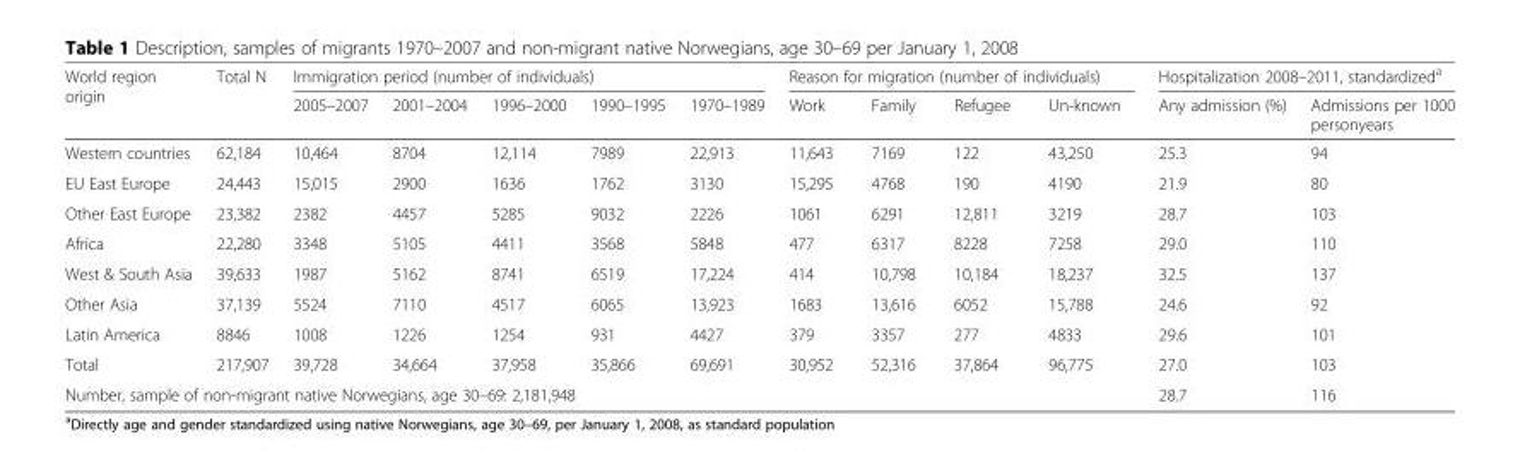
<table><thead><tr><td rowspan="2">World region origin</td><td rowspan="2">Total N</td><td colspan="5">Immigration period (number of individuals)</td><td colspan="4">Reason for migration (number of individuals)</td><td colspan="2">Hospitalization 2008–2011, standardized<sup>a</sup></td></tr><tr><td>2005–2007</td><td>2001–2004</td><td>1996–2000</td><td>1990–1995</td><td>1970–1989</td><td>Work</td><td>Family</td><td>Refugee</td><td>Un-known</td><td>Any admission (%)</td><td>Admissions per 1000 personyears</td></tr></thead><tbody><tr><td>Western countries</td><td>62,184</td><td>10,464</td><td>8704</td><td>12,114</td><td>7989</td><td>22,913</td><td>11,643</td><td>7169</td><td>122</td><td>43,250</td><td>25.3</td><td>94</td></tr><tr><td>EU East Europe</td><td>24,443</td><td>15,015</td><td>2900</td><td>1636</td><td>1762</td><td>3130</td><td>15,295</td><td>4768</td><td>190</td><td>4190</td><td>21.9</td><td>80</td></tr><tr><td>Other East Europe</td><td>23,382</td><td>2382</td><td>4457</td><td>5285</td><td>9032</td><td>2226</td><td>1061</td><td>6291</td><td>12,811</td><td>3219</td><td>28.7</td><td>103</td></tr><tr><td>Africa</td><td>22,280</td><td>3348</td><td>5105</td><td>4411</td><td>3568</td><td>5848</td><td>477</td><td>6317</td><td>8228</td><td>7258</td><td>29.0</td><td>110</td></tr><tr><td>West &amp; South Asia</td><td>39,633</td><td>1987</td><td>5162</td><td>8741</td><td>6519</td><td>17,224</td><td>414</td><td>10,798</td><td>10,184</td><td>18,237</td><td>32.5</td><td>137</td></tr><tr><td>Other Asia</td><td>37,139</td><td>5524</td><td>7110</td><td>4517</td><td>6065</td><td>13,923</td><td>1683</td><td>13,616</td><td>6052</td><td>15,788</td><td>24.6</td><td>92</td></tr><tr><td>Latin America</td><td>8846</td><td>1008</td><td>1226</td><td>1254</td><td>931</td><td>4427</td><td>379</td><td>3357</td><td>277</td><td>4833</td><td>29.6</td><td>101</td></tr><tr><td>Total</td><td>217,907</td><td>39,728</td><td>34,664</td><td>37,958</td><td>35,866</td><td>69,691</td><td>30,952</td><td>52,316</td><td>37,864</td><td>96,775</td><td>27.0</td><td>103</td></tr><tr><td colspan="11">Number, sample of non-migrant native Norwegians, age 30–69: 2,181,948</td><td>28.7</td><td>116</td></tr></tbody></table>